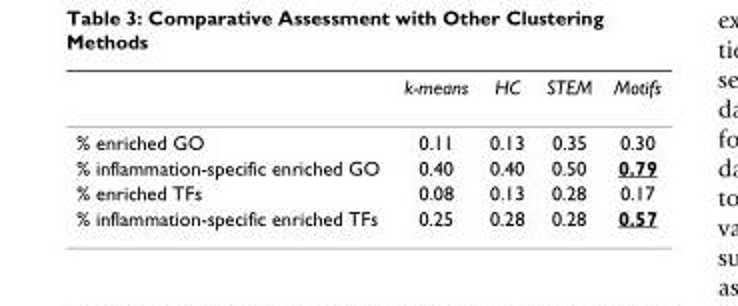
<table><thead><tr><td></td><td>k-means</td><td>HC</td><td>STEM</td><td>Motifs</td></tr></thead><tbody><tr><td>% enriched GO</td><td>0.11</td><td>0.13</td><td>0.35</td><td>0.30</td></tr><tr><td>% inflammation-specific enriched GO</td><td>0.40</td><td>0.40</td><td>0.50</td><td>0.79</td></tr><tr><td>% enriched TFs</td><td>0.08</td><td>0.13</td><td>0.28</td><td>0.17</td></tr><tr><td>% inflammation-specific enriched TFs</td><td>0.25</td><td>0.28</td><td>0.28</td><td>0.57</td></tr></tbody></table>